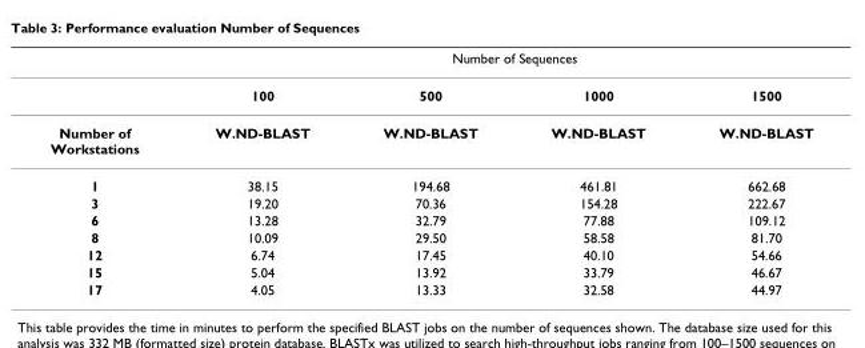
<table><thead><tr><td rowspan="2"></td><td colspan="4">Number of Sequences</td></tr><tr><td>100</td><td>500</td><td>1000</td><td>1500</td></tr></thead><tbody><tr><td>Number of Workstations</td><td>W.ND-BLAST</td><td>W.ND-BLAST</td><td>W.ND-BLAST</td><td>W.ND-BLAST</td></tr><tr><td>1</td><td>38.15</td><td>194.68</td><td>461.81</td><td>662.68</td></tr><tr><td>3</td><td>19.20</td><td>70.36</td><td>154.28</td><td>222.67</td></tr><tr><td>6</td><td>13.28</td><td>32.79</td><td>77.88</td><td>109.12</td></tr><tr><td>8</td><td>10.09</td><td>29.50</td><td>58.58</td><td>81.70</td></tr><tr><td>12</td><td>6.74</td><td>17.45</td><td>40.10</td><td>54.66</td></tr><tr><td>15</td><td>5.04</td><td>13.92</td><td>33.79</td><td>46.67</td></tr><tr><td>17</td><td>4.05</td><td>13.33</td><td>32.58</td><td>44.97</td></tr></tbody></table>